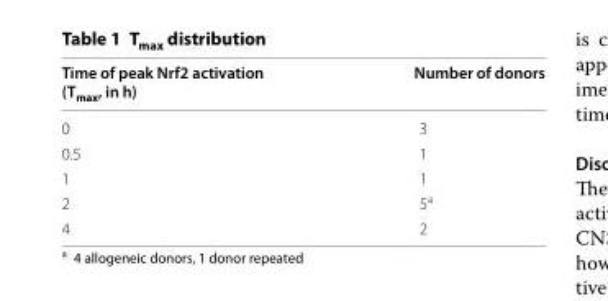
<table><thead><tr><td>Time of peak Nrf2 activation (T<sub>max</sub>, in h)</td><td>Number of donors</td></tr></thead><tbody><tr><td>0</td><td>3</td></tr><tr><td>0.5</td><td>1</td></tr><tr><td>1</td><td>1</td></tr><tr><td>2</td><td>5<sup>a</sup></td></tr><tr><td>4</td><td>2</td></tr></tbody></table>